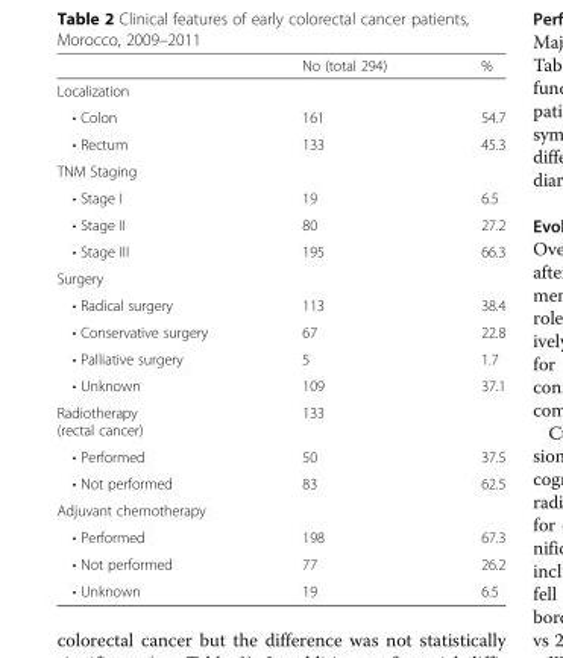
<table><thead><tr><td></td><td>No (total 294)</td><td>%</td></tr></thead><tbody><tr><td colspan="3">Localization</td></tr><tr><td>• Colon</td><td>161</td><td>54.7</td></tr><tr><td>• Rectum</td><td>133</td><td>45.3</td></tr><tr><td colspan="3">TNM Staging</td></tr><tr><td>• Stage I</td><td>19</td><td>6.5</td></tr><tr><td>• Stage II</td><td>80</td><td>27.2</td></tr><tr><td>• Stage III</td><td>195</td><td>66.3</td></tr><tr><td colspan="3">Surgery</td></tr><tr><td>• Radical surgery</td><td>113</td><td>38.4</td></tr><tr><td>• Conservative surgery</td><td>67</td><td>22.8</td></tr><tr><td>• Palliative surgery</td><td>5</td><td>1.7</td></tr><tr><td>• Unknown</td><td>109</td><td>37.1</td></tr><tr><td>Radiotherapy (rectal cancer)</td><td>133</td><td></td></tr><tr><td>• Performed</td><td>50</td><td>37.5</td></tr><tr><td>• Not performed</td><td>83</td><td>62.5</td></tr><tr><td colspan="3">Adjuvant chemotherapy</td></tr><tr><td>• Performed</td><td>198</td><td>67.3</td></tr><tr><td>• Not performed</td><td>77</td><td>26.2</td></tr><tr><td>• Unknown</td><td>19</td><td>6.5</td></tr></tbody></table>